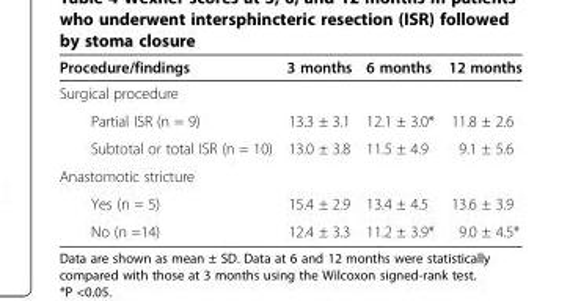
<table><thead><tr><td>Procedure/findings</td><td>3 months</td><td>6 months</td><td>12 months</td></tr></thead><tbody><tr><td colspan="4">Surgical procedure</td></tr><tr><td>Partial ISR (n = 9)</td><td>13.3 ± 3.1</td><td>12.1 ± 3.0*</td><td>11.8 ± 2.6</td></tr><tr><td>Subtotal or total ISR (n = 10)</td><td>13.0 ± 3.8</td><td>11.5 ± 4.9</td><td>9.1 ± 5.6</td></tr><tr><td colspan="4">Anastomotic stricture</td></tr><tr><td>Yes (n = 5)</td><td>15.4 ± 2.9</td><td>13.4 ± 4.5</td><td>13.6 ± 3.9</td></tr><tr><td>No (n =14)</td><td>12.4 ± 3.3</td><td>11.2 ± 3.9*</td><td>9.0 ± 4.5*</td></tr></tbody></table>